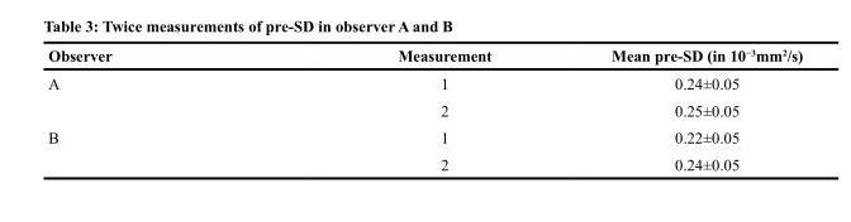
<table><thead><tr><td>Observer</td><td>Measurement</td><td>Mean pre-SD (in 10<sup>−3</sup>mm<sup>2</sup>/s)</td></tr></thead><tbody><tr><td rowspan="2">A</td><td>1</td><td>0.24±0.05</td></tr><tr><td>2</td><td>0.25±0.05</td></tr><tr><td rowspan="2">B</td><td>1</td><td>0.22±0.05</td></tr><tr><td>2</td><td>0.24±0.05</td></tr></tbody></table>